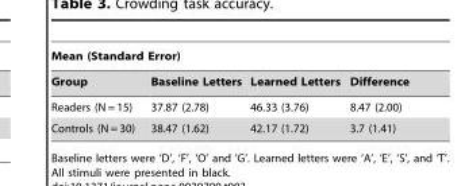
<table><thead><tr><td colspan="4">Mean (Standard Error)</td></tr><tr><td>Group</td><td>Baseline Letters</td><td>Learned Letters</td><td>Difference</td></tr></thead><tbody><tr><td>Readers (N = 15)</td><td>37.87 (2.78)</td><td>46.33 (3.76)</td><td>8.47 (2.00)</td></tr><tr><td>Controls (N = 30)</td><td>38.47 (1.62)</td><td>42.17 (1.72)</td><td>3.7 (1.41)</td></tr></tbody></table>